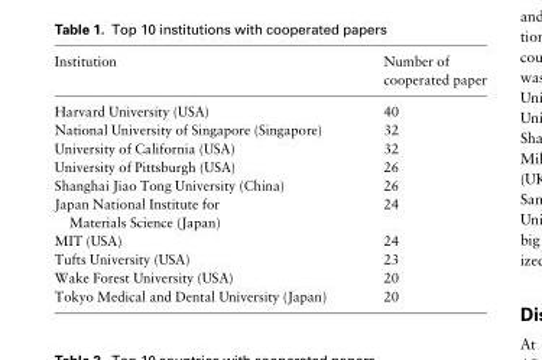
<table><thead><tr><td>Institution</td><td>Number of cooperated paper</td></tr></thead><tbody><tr><td>Harvard University (USA)</td><td>40</td></tr><tr><td>National University of Singapore (Singapore)</td><td>32</td></tr><tr><td>University of California (USA)</td><td>32</td></tr><tr><td>University of Pittsburgh (USA)</td><td>26</td></tr><tr><td>Shanghai Jiao Tong University (China)</td><td>26</td></tr><tr><td>Japan National Institute for Materials Science (Japan)</td><td>24</td></tr><tr><td>MIT (USA)</td><td>24</td></tr><tr><td>Tufts University (USA)</td><td>23</td></tr><tr><td>Wake Forest University (USA)</td><td>20</td></tr><tr><td>Tokyo Medical and Dental University (Japan)</td><td>20</td></tr></tbody></table>